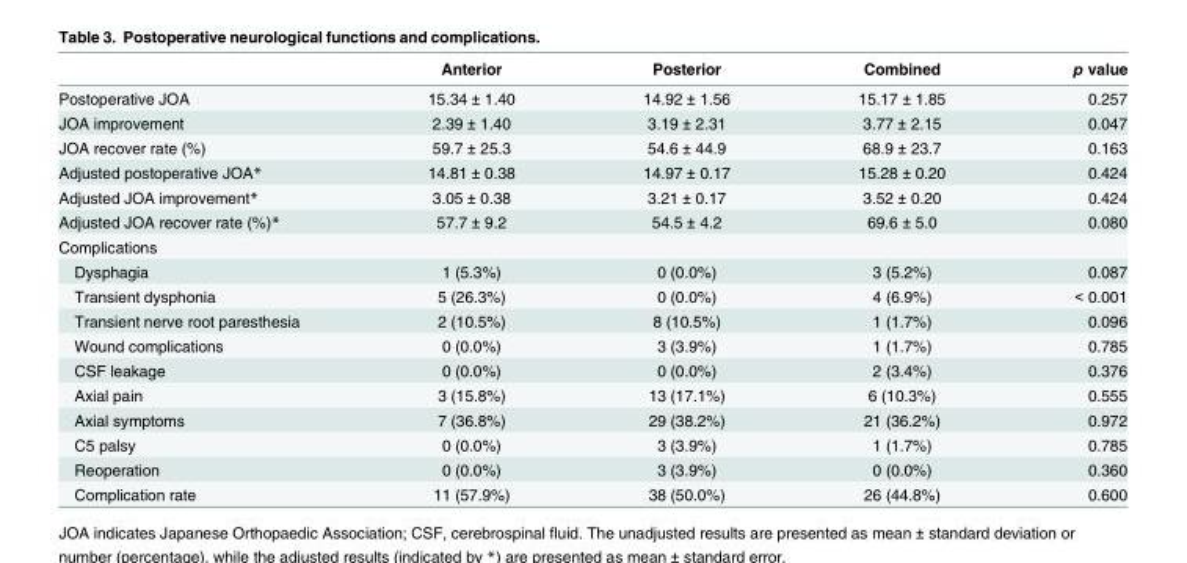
<table><thead><tr><td></td><td>Anterior</td><td>Posterior</td><td>Combined</td><td>p value</td></tr></thead><tbody><tr><td>Postoperative JOA</td><td>15.34 ± 1.40</td><td>14.92 ± 1.56</td><td>15.17 ± 1.85</td><td>0.257</td></tr><tr><td>JOA improvement</td><td>2.39 ± 1.40</td><td>3.19 ± 2.31</td><td>3.77 ± 2.15</td><td>0.047</td></tr><tr><td>JOA recover rate (%)</td><td>59.7 ± 25.3</td><td>54.6 ± 44.9</td><td>68.9 ± 23.7</td><td>0.163</td></tr><tr><td>Adjusted postoperative JOA*</td><td>14.81 ± 0.38</td><td>14.97 ± 0.17</td><td>15.28 ± 0.20</td><td>0.424</td></tr><tr><td>Adjusted JOA improvement*</td><td>3.05 ± 0.38</td><td>3.21 ± 0.17</td><td>3.52 ± 0.20</td><td>0.424</td></tr><tr><td>Adjusted JOA recover rate (%)*</td><td>57.7 ± 9.2</td><td>54.5 ± 4.2</td><td>69.6 ± 5.0</td><td>0.080</td></tr><tr><td colspan="5">Complications</td></tr><tr><td>Dysphagia</td><td>1 (5.3%)</td><td>0 (0.0%)</td><td>3 (5.2%)</td><td>0.087</td></tr><tr><td>Transient dysphonia</td><td>5 (26.3%)</td><td>0 (0.0%)</td><td>4 (6.9%)</td><td>&lt; 0.001</td></tr><tr><td>Transient nerve root paresthesia</td><td>2 (10.5%)</td><td>8 (10.5%)</td><td>1 (1.7%)</td><td>0.096</td></tr><tr><td>Wound complications</td><td>0 (0.0%)</td><td>3 (3.9%)</td><td>1 (1.7%)</td><td>0.785</td></tr><tr><td>CSF leakage</td><td>0 (0.0%)</td><td>0 (0.0%)</td><td>2 (3.4%)</td><td>0.376</td></tr><tr><td>Axial pain</td><td>3 (15.8%)</td><td>13 (17.1%)</td><td>6 (10.3%)</td><td>0.555</td></tr><tr><td>Axial symptoms</td><td>7 (36.8%)</td><td>29 (38.2%)</td><td>21 (36.2%)</td><td>0.972</td></tr><tr><td>C5 palsy</td><td>0 (0.0%)</td><td>3 (3.9%)</td><td>1 (1.7%)</td><td>0.785</td></tr><tr><td>Reoperation</td><td>0 (0.0%)</td><td>3 (3.9%)</td><td>0 (0.0%)</td><td>0.360</td></tr><tr><td>Complication rate</td><td>11 (57.9%)</td><td>38 (50.0%)</td><td>26 (44.8%)</td><td>0.600</td></tr></tbody></table>